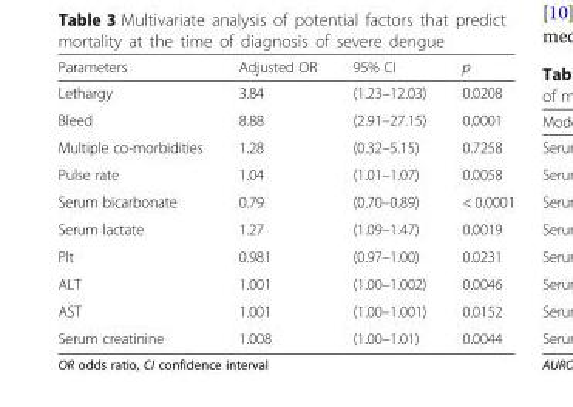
<table><thead><tr><td>Parameters</td><td>Adjusted OR</td><td>95% CI</td><td>p</td></tr></thead><tbody><tr><td>Lethargy</td><td>3.84</td><td>(1.23–12.03)</td><td>0.0208</td></tr><tr><td>Bleed</td><td>8.88</td><td>(2.91–27.15)</td><td>0.0001</td></tr><tr><td>Multiple co-morbidities</td><td>1.28</td><td>(0.32–5.15)</td><td>0.7258</td></tr><tr><td>Pulse rate</td><td>1.04</td><td>(1.01–1.07)</td><td>0.0058</td></tr><tr><td>Serum bicarbonate</td><td>0.79</td><td>(0.70–0.89)</td><td>&lt; 0.0001</td></tr><tr><td>Serum lactate</td><td>1.27</td><td>(1.09–1.47)</td><td>0.0019</td></tr><tr><td>Plt</td><td>0.981</td><td>(0.97–1.00)</td><td>0.0231</td></tr><tr><td>ALT</td><td>1.001</td><td>(1.00–1.002)</td><td>0.0046</td></tr><tr><td>AST</td><td>1.001</td><td>(1.00–1.001)</td><td>0.0152</td></tr><tr><td>Serum creatinine</td><td>1.008</td><td>(1.00–1.01)</td><td>0.0044</td></tr></tbody></table>